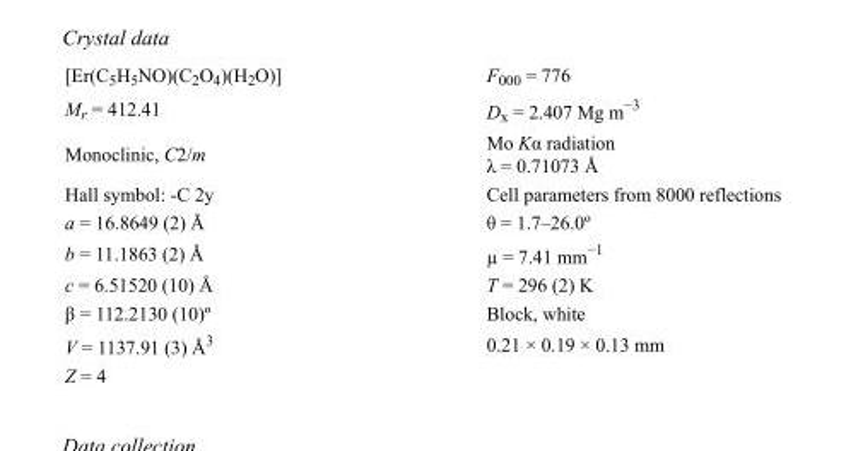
<table><tbody><tr><td>[Er(C<sub>5</sub>H<sub>5</sub>NO)(C<sub>2</sub>O<sub>4</sub>)(H<sub>2</sub>O)]</td><td>F<sub>000</sub> = 776</td></tr><tr><td>M<sub>r</sub> = 412.41</td><td>D<sub>x</sub> = 2.407 Mg m<sup>−3</sup></td></tr><tr><td>Monoclinic, C2/m</td><td>Mo Kα radiation λ = 0.71073 Å</td></tr><tr><td>Hall symbol: -C 2y</td><td>Cell parameters from 8000 reflections</td></tr><tr><td>a = 16.8649 (2) Å</td><td>θ = 1.7–26.0º</td></tr><tr><td>b = 11.1863 (2) Å</td><td>µ = 7.41 mm<sup>−1</sup></td></tr><tr><td>c = 6.51520 (10) Å</td><td>T = 296 (2) K</td></tr><tr><td>β = 112.2130 (10)º</td><td>Block, white</td></tr><tr><td>V = 1137.91 (3) Å<sup>3</sup></td><td>0.21 × 0.19 × 0.13 mm</td></tr><tr><td>Z = 4</td><td></td></tr></tbody></table>